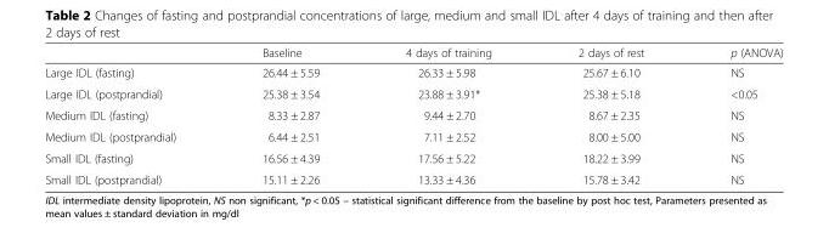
<table><thead><tr><td></td><td>Baseline</td><td>4 days of training</td><td>2 days of rest</td><td>p (ANOVA)</td></tr></thead><tbody><tr><td>Large IDL (fasting)</td><td>26.44 ± 5.59</td><td>26.33 ± 5.98</td><td>25.67 ± 6.10</td><td>NS</td></tr><tr><td>Large IDL (postprandial)</td><td>25.38 ± 3.54</td><td>23.88 ± 3.91*</td><td>25.38 ± 5.18</td><td>&lt;0.05</td></tr><tr><td>Medium IDL (fasting)</td><td>8.33 ± 2.87</td><td>9.44 ± 2.70</td><td>8.67 ± 2.35</td><td>NS</td></tr><tr><td>Medium IDL (postprandial)</td><td>6.44 ± 2.51</td><td>7.11 ± 2.52</td><td>8.00 ± 5.00</td><td>NS</td></tr><tr><td>Small IDL (fasting)</td><td>16.56 ± 4.39</td><td>17.56 ± 5.22</td><td>18.22 ± 3.99</td><td>NS</td></tr><tr><td>Small IDL (postprandial)</td><td>15.11 ± 2.26</td><td>13.33 ± 4.36</td><td>15.78 ± 3.42</td><td>NS</td></tr></tbody></table>